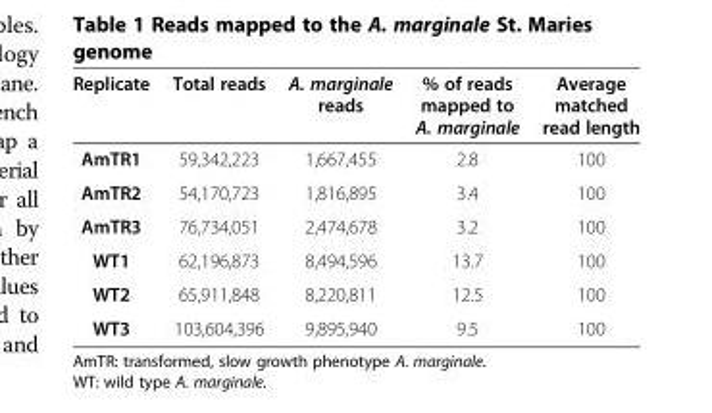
<table><thead><tr><td>Replicate</td><td>Total reads</td><td>A. marginale reads</td><td>% of reads mapped to A. marginale</td><td>Average matched read length</td></tr></thead><tbody><tr><td>AmTR1</td><td>59,342,223</td><td>1,667,455</td><td>2.8</td><td>100</td></tr><tr><td>AmTR2</td><td>54,170,723</td><td>1,816,895</td><td>3.4</td><td>100</td></tr><tr><td>AmTR3</td><td>76,734,051</td><td>2,474,678</td><td>3.2</td><td>100</td></tr><tr><td>WT1</td><td>62,196,873</td><td>8,494,596</td><td>13.7</td><td>100</td></tr><tr><td>WT2</td><td>65,911,848</td><td>8,220,811</td><td>12.5</td><td>100</td></tr><tr><td>WT3</td><td>103,604,396</td><td>9,895,940</td><td>9.5</td><td>100</td></tr></tbody></table>